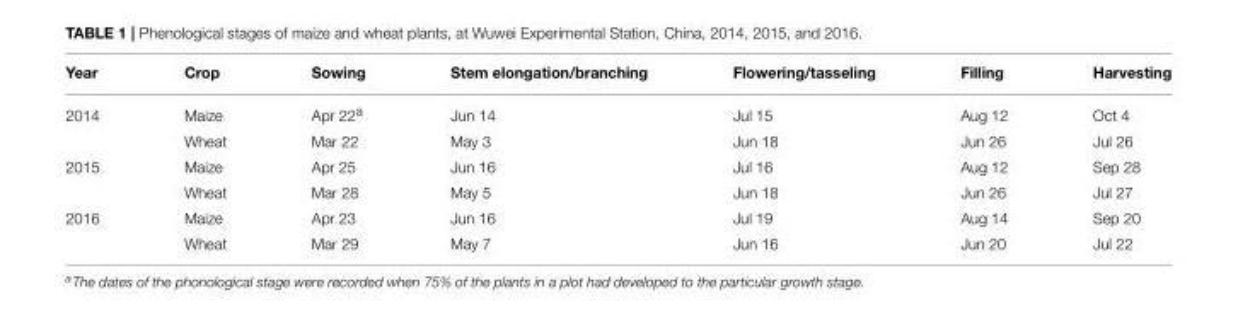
<table><thead><tr><td>Year</td><td>Crop</td><td>Sowing</td><td>Stem elongation/branching</td><td>Flowering/tasseling</td><td>Filling</td><td>Harvesting</td></tr></thead><tbody><tr><td rowspan="2">2014</td><td>Maize</td><td>Apr 22<sup>a</sup></td><td>Jun 14</td><td>Jul 15</td><td>Aug 12</td><td>Oct 4</td></tr><tr><td>Wheat</td><td>Mar 22</td><td>May 3</td><td>Jun 18</td><td>Jun 26</td><td>Jul 26</td></tr><tr><td rowspan="2">2015</td><td>Maize</td><td>Apr 25</td><td>Jun 16</td><td>Jul 16</td><td>Aug 12</td><td>Sep 28</td></tr><tr><td>Wheat</td><td>Mar 28</td><td>May 5</td><td>Jun 18</td><td>Jun 26</td><td>Jul 27</td></tr><tr><td rowspan="2">2016</td><td>Maize</td><td>Apr 23</td><td>Jun 16</td><td>Jul 19</td><td>Aug 14</td><td>Sep 20</td></tr><tr><td>Wheat</td><td>Mar 29</td><td>May 7</td><td>Jun 16</td><td>Jun 20</td><td>Jul 22</td></tr></tbody></table>